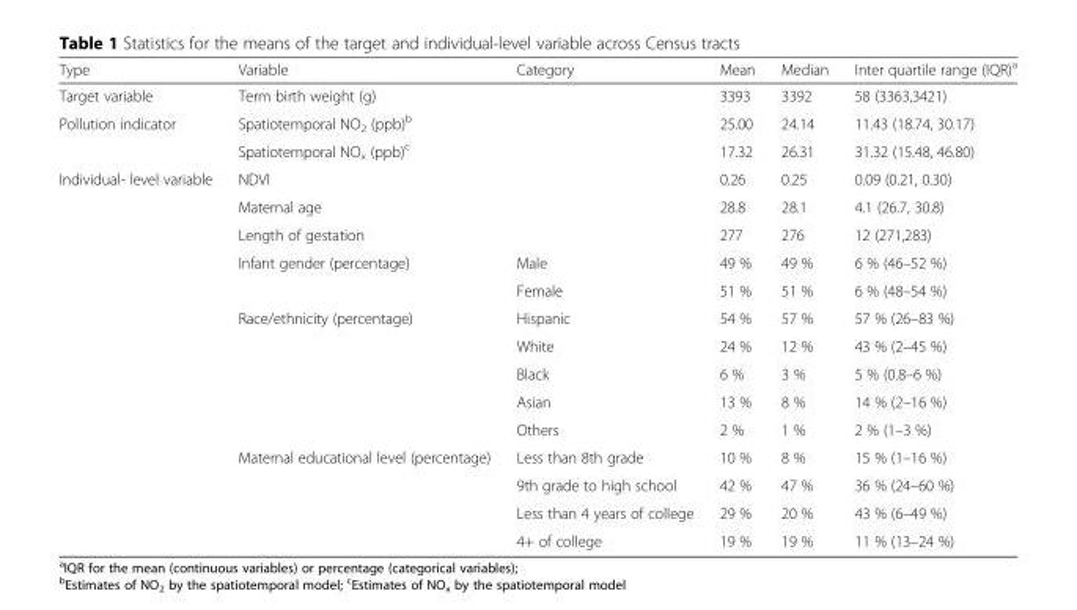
<table><thead><tr><td>Type</td><td>Variable</td><td>Category</td><td>Mean</td><td>Median</td><td>Inter quartile range (IQR)<sup>a</sup></td></tr></thead><tbody><tr><td>Target variable</td><td>Term birth weight (g)</td><td></td><td>3393</td><td>3392</td><td>58 (3363,3421)</td></tr><tr><td rowspan="2">Pollution indicator</td><td>Spatiotemporal NO<sub>2</sub> (ppb)<sup>b</sup></td><td></td><td>25.00</td><td>24.14</td><td>11.43 (18.74, 30.17)</td></tr><tr><td>Spatiotemporal NO<sub>x</sub> (ppb)<sup>c</sup></td><td></td><td>17.32</td><td>26.31</td><td>31.32 (15.48, 46.80)</td></tr><tr><td rowspan="14">Individual- level variable</td><td>NDVI</td><td></td><td>0.26</td><td>0.25</td><td>0.09 (0.21, 0.30)</td></tr><tr><td>Maternal age</td><td></td><td>28.8</td><td>28.1</td><td>4.1 (26.7, 30.8)</td></tr><tr><td>Length of gestation</td><td></td><td>277</td><td>276</td><td>12 (271,283)</td></tr><tr><td rowspan="2">Infant gender (percentage)</td><td>Male</td><td>49 %</td><td>49 %</td><td>6 % (46–52 %)</td></tr><tr><td>Female</td><td>51 %</td><td>51 %</td><td>6 % (48–54 %)</td></tr><tr><td rowspan="5">Race/ethnicity (percentage)</td><td>Hispanic</td><td>54 %</td><td>57 %</td><td>57 % (26–83 %)</td></tr><tr><td>White</td><td>24 %</td><td>12 %</td><td>43 % (2–45 %)</td></tr><tr><td>Black</td><td>6 %</td><td>3 %</td><td>5 % (0.8–6 %)</td></tr><tr><td>Asian</td><td>13 %</td><td>8 %</td><td>14 % (2–16 %)</td></tr><tr><td>Others</td><td>2 %</td><td>1 %</td><td>2 % (1–3 %)</td></tr><tr><td rowspan="4">Maternal educational level (percentage)</td><td>Less than 8th grade</td><td>10 %</td><td>8 %</td><td>15 % (1–16 %)</td></tr><tr><td>9th grade to high school</td><td>42 %</td><td>47 %</td><td>36 % (24–60 %)</td></tr><tr><td>Less than 4 years of college</td><td>29 %</td><td>20 %</td><td>43 % (6–49 %)</td></tr><tr><td>4+ of college</td><td>19 %</td><td>19 %</td><td>11 % (13–24 %)</td></tr></tbody></table>